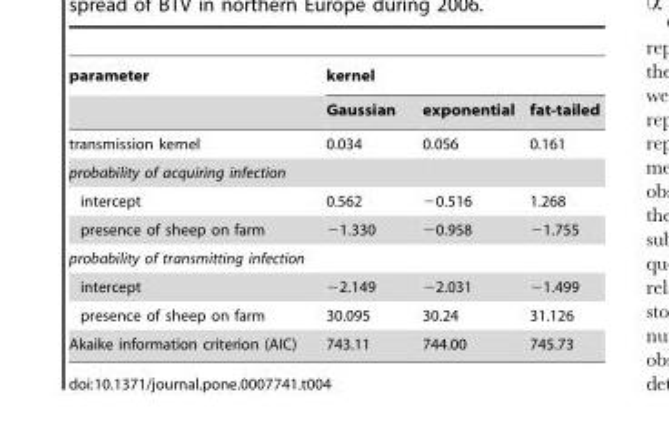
<table><thead><tr><td rowspan="2">parameter</td><td colspan="3">kernel</td></tr><tr><td>Gaussian</td><td>exponential</td><td>fat-tailed</td></tr></thead><tbody><tr><td>transmission kernel</td><td>0.034</td><td>0.056</td><td>0.161</td></tr><tr><td colspan="4">probability of acquiring infection</td></tr><tr><td>intercept</td><td>0.562</td><td>−0.516</td><td>1.268</td></tr><tr><td>presence of sheep on farm</td><td>−1.330</td><td>−0.958</td><td>−1.755</td></tr><tr><td colspan="4">probability of transmitting infection</td></tr><tr><td>intercept</td><td>−2.149</td><td>−2.031</td><td>−1.499</td></tr><tr><td>presence of sheep on farm</td><td>30.095</td><td>30.24</td><td>31.126</td></tr><tr><td>Akaike information criterion (AIC)</td><td>743.11</td><td>744.00</td><td>745.73</td></tr></tbody></table>